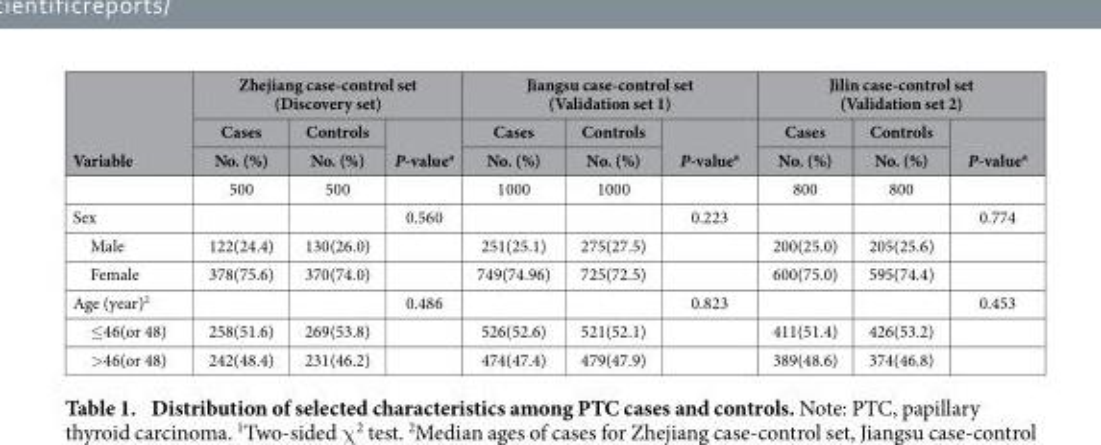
<table><thead><tr><td rowspan="3">Variable</td><td colspan="3">Zhejiang case-control set (Discovery set)</td><td colspan="3">Jiangsu case-control set (Validation set 1)</td><td colspan="3">Jilin case-control set (Validation set 2)</td></tr><tr><td rowspan="2">Cases No. (%)</td><td rowspan="2">Controls No. (%)</td><td rowspan="2">P-value<sup>a</sup></td><td rowspan="2">Cases No. (%)</td><td rowspan="2">Controls No. (%)</td><td rowspan="2">P-value<sup>a</sup></td><td rowspan="2">Cases No. (%)</td><td rowspan="2">Controls No. (%)</td><td rowspan="2">P-value<sup>a</sup></td></tr><tr></tr></thead><tbody><tr><td></td><td>500</td><td>500</td><td></td><td>1000</td><td>1000</td><td></td><td>800</td><td>800</td><td></td></tr><tr><td>Sex</td><td></td><td></td><td>0.560</td><td></td><td></td><td>0.223</td><td></td><td></td><td>0.774</td></tr><tr><td>Male</td><td>122(24.4)</td><td>130(26.0)</td><td></td><td>251(25.1)</td><td>275(27.5)</td><td></td><td>200(25.0)</td><td>205(25.6)</td><td></td></tr><tr><td>Female</td><td>378(75.6)</td><td>370(74.0)</td><td></td><td>749(74.96)</td><td>725(72.5)</td><td></td><td>600(75.0)</td><td>595(74.4)</td><td></td></tr><tr><td>Age (year)<sup>2</sup></td><td></td><td></td><td>0.486</td><td></td><td></td><td>0.823</td><td></td><td></td><td>0.453</td></tr><tr><td>≤ 46(or 48)</td><td>258(51.6)</td><td>269(53.8)</td><td></td><td>526(52.6)</td><td>521(52.1)</td><td></td><td>411(51.4)</td><td>426(53.2)</td><td></td></tr><tr><td>&gt; 46(or 48)</td><td>242(48.4)</td><td>231(46.2)</td><td></td><td>474(47.4)</td><td>479(47.9)</td><td></td><td>389(48.6)</td><td>374(46.8)</td><td></td></tr></tbody></table>